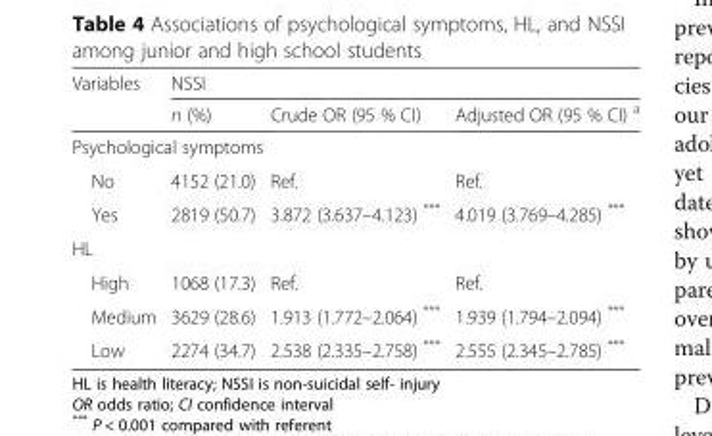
<table><thead><tr><td rowspan="2">Variables</td><td colspan="3">NSSI</td></tr><tr><td>n (%)</td><td>Crude OR (95 % CI)</td><td>Adjusted OR (95 % CI) <sup>a</sup></td></tr></thead><tbody><tr><td colspan="4">Psychological symptoms</td></tr><tr><td>No</td><td>4152 (21.0)</td><td>Ref.</td><td>Ref.</td></tr><tr><td>Yes</td><td>2819 (50.7)</td><td>3.872 (3.637–4.123) ***</td><td>4.019 (3.769–4.285) ***</td></tr><tr><td colspan="4">HL</td></tr><tr><td>High</td><td>1068 (17.3)</td><td>Ref.</td><td>Ref.</td></tr><tr><td>Medium</td><td>3629 (28.6)</td><td>1.913 (1.772–2.064) ***</td><td>1.939 (1.794–2.094) ***</td></tr><tr><td>Low</td><td>2274 (34.7)</td><td>2.538 (2.335–2.758) ***</td><td>2.555 (2.345–2.785) ***</td></tr></tbody></table>